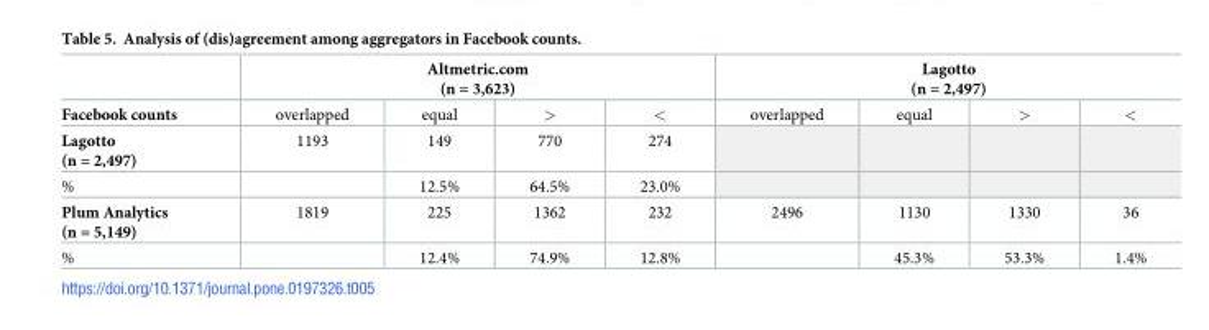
<table><thead><tr><td rowspan="2">Facebook counts</td><td colspan="4">Altmetric.com (n = 3,623)</td><td colspan="4">Lagotto (n = 2,497)</td></tr><tr><td>overlapped</td><td>equal</td><td>&gt;</td><td>&lt;</td><td>overlapped</td><td>equal</td><td>&gt;</td><td>&lt;</td></tr></thead><tbody><tr><td>Lagotto (n = 2,497)</td><td>1193</td><td>149</td><td>770</td><td>274</td><td></td><td></td><td></td><td></td></tr><tr><td>%</td><td></td><td>12.5%</td><td>64.5%</td><td>23.0%</td><td></td><td></td><td></td><td></td></tr><tr><td>Plum Analytics (n = 5,149)</td><td>1819</td><td>225</td><td>1362</td><td>232</td><td>2496</td><td>1130</td><td>1330</td><td>36</td></tr><tr><td>%</td><td></td><td>12.4%</td><td>74.9%</td><td>12.8%</td><td></td><td>45.3%</td><td>53.3%</td><td>1.4%</td></tr></tbody></table>